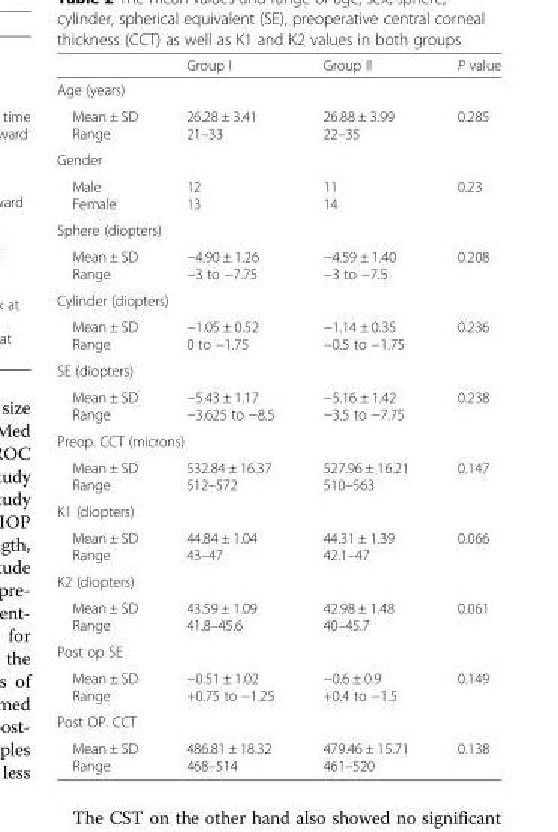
<table><thead><tr><td></td><td>Group I</td><td>Group II</td><td>P value</td></tr></thead><tbody><tr><td colspan="4">Age (years)</td></tr><tr><td>Mean ± SD Range</td><td>26.28 ± 3.41 21–33</td><td>26.88 ± 3.99 22–35</td><td>0.285</td></tr><tr><td colspan="4">Gender</td></tr><tr><td>Male Female</td><td>12 13</td><td>11 14</td><td>0.23</td></tr><tr><td colspan="4">Sphere (diopters)</td></tr><tr><td>Mean ± SD Range</td><td>−4.90 ± 1.26 −3 to −7.75</td><td>−4.59 ± 1.40 −3 to −7.5</td><td>0.208</td></tr><tr><td colspan="4">Cylinder (diopters)</td></tr><tr><td>Mean ± SD Range</td><td>−1.05 ± 0.52 0 to −1.75</td><td>−1.14 ± 0.35 −0.5 to −1.75</td><td>0.236</td></tr><tr><td colspan="4">SE (diopters)</td></tr><tr><td>Mean ± SD Range</td><td>−5.43 ± 1.17 −3.625 to −8.5</td><td>−5.16 ± 1.42 −3.5 to −7.75</td><td>0.238</td></tr><tr><td colspan="4">Preop. CCT (microns)</td></tr><tr><td>Mean ± SD Range</td><td>532.84 ± 16.37 512–572</td><td>527.96 ± 16.21 510–563</td><td>0.147</td></tr><tr><td colspan="4">K1 (diopters)</td></tr><tr><td>Mean ± SD Range</td><td>44.84 ± 1.04 43–47</td><td>44.31 ± 1.39 42.1–47</td><td>0.066</td></tr><tr><td colspan="4">K2 (diopters)</td></tr><tr><td>Mean ± SD Range</td><td>43.59 ± 1.09 41.8–45.6</td><td>42.98 ± 1.48 40–45.7</td><td>0.061</td></tr><tr><td colspan="4">Post op SE</td></tr><tr><td>Mean ± SD Range</td><td>−0.51 ± 1.02 +0.75 to −1.25</td><td>−0.6 ± 0.9 +0.4 to −1.5</td><td>0.149</td></tr><tr><td colspan="4">Post OP. CCT</td></tr><tr><td>Mean ± SD Range</td><td>486.81 ± 18.32 468–514</td><td>479.46 ± 15.71 461–520</td><td>0.138</td></tr></tbody></table>